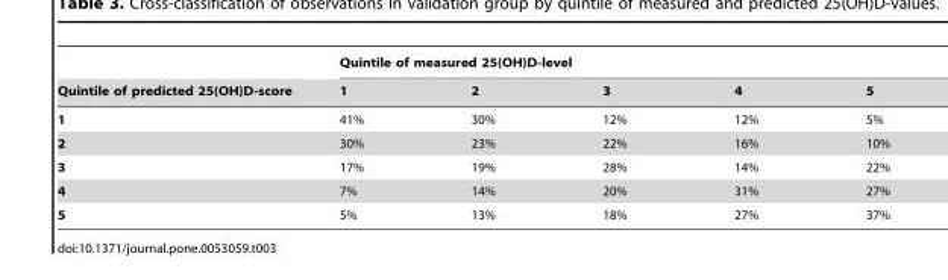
<table><thead><tr><td rowspan="2">Quintile of predicted 25(OH)D-score</td><td colspan="5">Quintile of measured 25(OH)D-level</td></tr><tr><td>1</td><td>2</td><td>3</td><td>4</td><td>5</td></tr></thead><tbody><tr><td>1</td><td>41%</td><td>30%</td><td>12%</td><td>12%</td><td>5%</td></tr><tr><td>2</td><td>30%</td><td>23%</td><td>22%</td><td>16%</td><td>10%</td></tr><tr><td>3</td><td>17%</td><td>19%</td><td>28%</td><td>14%</td><td>22%</td></tr><tr><td>4</td><td>7%</td><td>14%</td><td>20%</td><td>31%</td><td>27%</td></tr><tr><td>5</td><td>5%</td><td>13%</td><td>18%</td><td>27%</td><td>37%</td></tr></tbody></table>